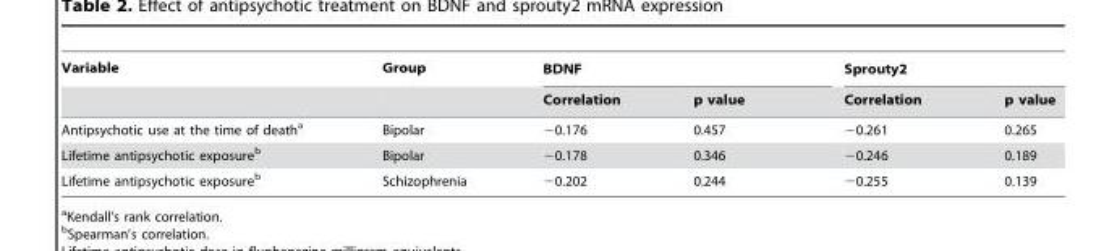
<table><thead><tr><td rowspan="2">Variable</td><td rowspan="2">Group</td><td colspan="2">BDNF</td><td colspan="2">Sprouty2</td></tr><tr><td>Correlation</td><td>p value</td><td>Correlation</td><td>p value</td></tr></thead><tbody><tr><td>Antipsychotic use at the time of death<sup>a</sup></td><td>Bipolar</td><td>−0.176</td><td>0.457</td><td>−0.261</td><td>0.265</td></tr><tr><td>Lifetime antipsychotic exposure<sup>b</sup></td><td>Bipolar</td><td>−0.178</td><td>0.346</td><td>−0.246</td><td>0.189</td></tr><tr><td>Lifetime antipsychotic exposure<sup>b</sup></td><td>Schizophrenia</td><td>−0.202</td><td>0.244</td><td>−0.255</td><td>0.139</td></tr></tbody></table>